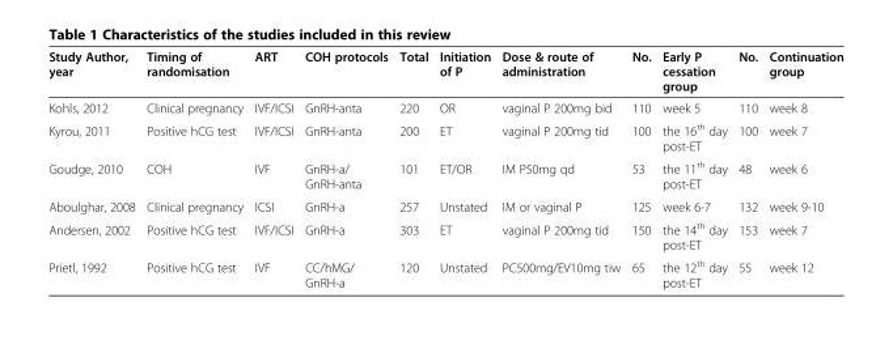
<table><thead><tr><td>Study Author, year</td><td>Timing of randomisation</td><td>ART</td><td>COH protocols</td><td>Total</td><td>Initiation of P</td><td>Dose &amp; route of administration</td><td>No.</td><td>Early P cessation group</td><td>No.</td><td>Continuation group</td></tr></thead><tbody><tr><td>Kohls, 2012</td><td>Clinical pregnancy</td><td>IVF/ICSI</td><td>GnRH-anta</td><td>220</td><td>OR</td><td>vaginal P 200mg bid</td><td>110</td><td>week 5</td><td>110</td><td>week 8</td></tr><tr><td>Kyrou, 2011</td><td>Positive hCG test</td><td>IVF/ICSI</td><td>GnRH-anta</td><td>200</td><td>ET</td><td>vaginal P 200mg tid</td><td>100</td><td>the 16<sup>th</sup> day post-ET</td><td>100</td><td>week 7</td></tr><tr><td>Goudge, 2010</td><td>COH</td><td>IVF</td><td>GnRH-a/ GnRH-anta</td><td>101</td><td>ET/OR</td><td>IM P50mg qd</td><td>53</td><td>the 11<sup>th</sup> day post-ET</td><td>48</td><td>week 6</td></tr><tr><td>Aboulghar, 2008</td><td>Clinical pregnancy</td><td>ICSI</td><td>GnRH-a</td><td>257</td><td>Unstated</td><td>IM or vaginal P</td><td>125</td><td>week 6-7</td><td>132</td><td>week 9-10</td></tr><tr><td>Andersen, 2002</td><td>Positive hCG test</td><td>IVF/ICSI</td><td>GnRH-a</td><td>303</td><td>ET</td><td>vaginal P 200mg tid</td><td>150</td><td>the 14<sup>th</sup> day post-ET</td><td>153</td><td>week 7</td></tr><tr><td>Prietl, 1992</td><td>Positive hCG test</td><td>IVF</td><td>CC/hMG/ GnRH-a</td><td>120</td><td>Unstated</td><td>PC500mg/EV10mg tiw</td><td>65</td><td>the 12<sup>th</sup> day post-ET</td><td>55</td><td>week 12</td></tr></tbody></table>